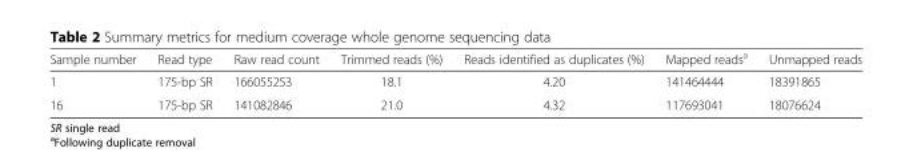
<table><thead><tr><td>Sample number</td><td>Read type</td><td>Raw read count</td><td>Trimmed reads (%)</td><td>Reads identified as duplicates (%)</td><td>Mapped reads<sup>a</sup></td><td>Unmapped reads</td></tr></thead><tbody><tr><td>1</td><td>175-bp SR</td><td>166055253</td><td>18.1</td><td>4.20</td><td>141464444</td><td>18391865</td></tr><tr><td>16</td><td>175-bp SR</td><td>141082846</td><td>21.0</td><td>4.32</td><td>117693041</td><td>18076624</td></tr></tbody></table>